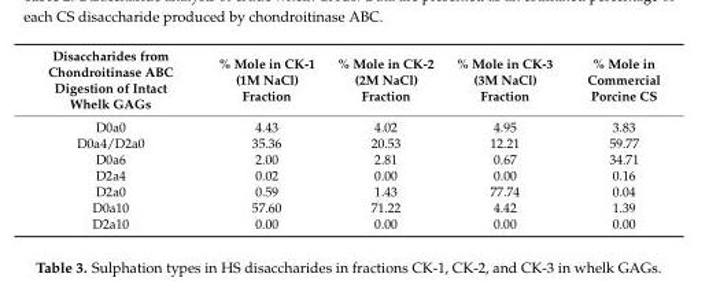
<table><thead><tr><td>Disaccharides from Chondroitinase ABC Digestion of Intact Whelk GAGs</td><td>% Mole in CK-1 (1M NaCl) Fraction</td><td>% Mole in CK-2 (2M NaCl) Fraction</td><td>% Mole in CK-3 (3M NaCl) Fraction</td><td>% Mole in Commercial Porcine CS</td></tr></thead><tbody><tr><td>D0a0</td><td>4.43</td><td>4.02</td><td>4.95</td><td>3.83</td></tr><tr><td>D0a4/D2a0</td><td>35.36</td><td>20.53</td><td>12.21</td><td>59.77</td></tr><tr><td>D0a6</td><td>2.00</td><td>2.81</td><td>0.67</td><td>34.71</td></tr><tr><td>D2a4</td><td>0.02</td><td>0.00</td><td>0.00</td><td>0.16</td></tr><tr><td>D2a0</td><td>0.59</td><td>1.43</td><td>77.74</td><td>0.04</td></tr><tr><td>D0a10</td><td>57.60</td><td>71.22</td><td>4.42</td><td>1.39</td></tr><tr><td>D2a10</td><td>0.00</td><td>0.00</td><td>0.00</td><td>0.00</td></tr></tbody></table>